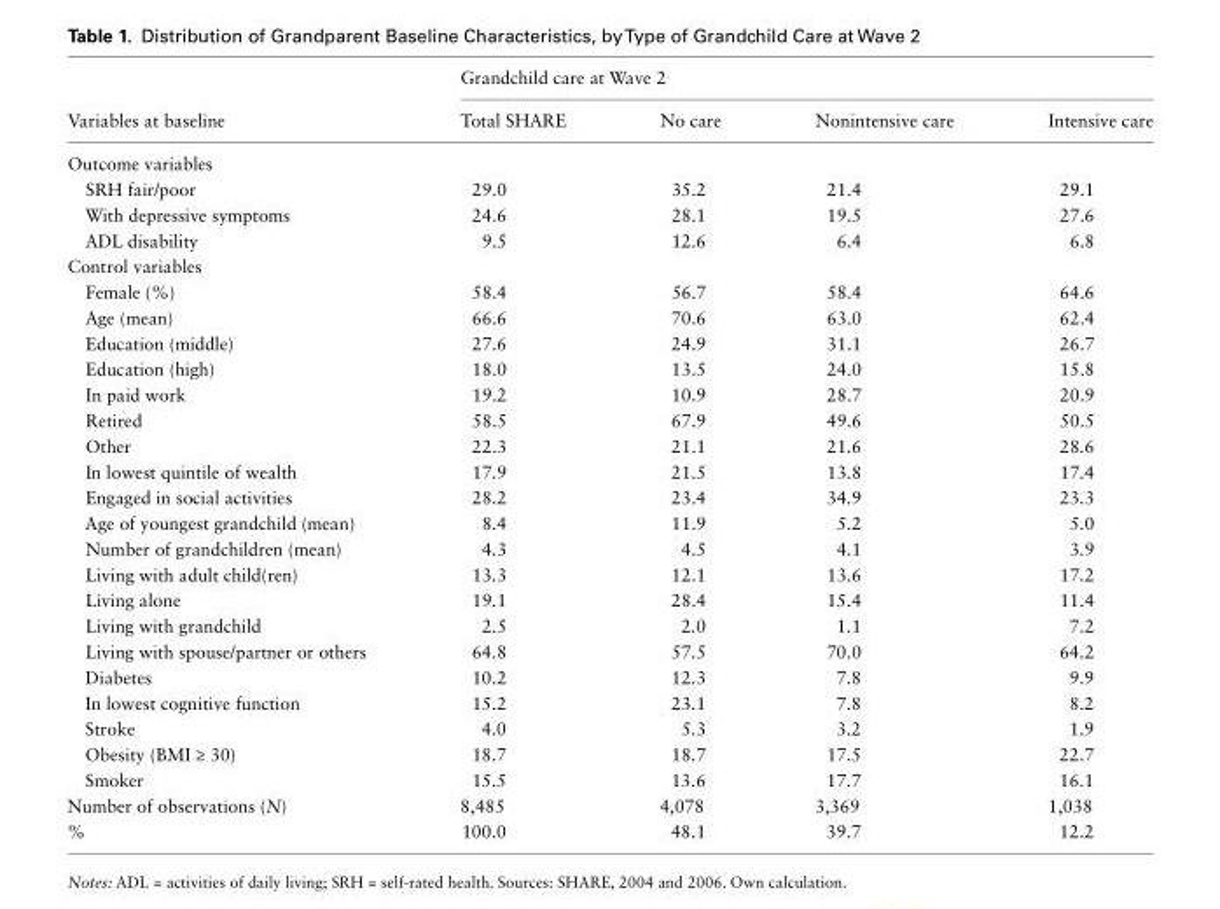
<table><thead><tr><td rowspan="2">Variables at baseline</td><td colspan="4">Grandchild care at Wave 2</td></tr><tr><td>Total SHARE</td><td>No care</td><td>Nonintensive care</td><td>Intensive care</td></tr></thead><tbody><tr><td colspan="5">Outcome variables</td></tr><tr><td>SRH fair/poor</td><td>29.0</td><td>35.2</td><td>21.4</td><td>29.1</td></tr><tr><td>With depressive symptoms</td><td>24.6</td><td>28.1</td><td>19.5</td><td>27.6</td></tr><tr><td>ADL disability</td><td>9.5</td><td>12.6</td><td>6.4</td><td>6.8</td></tr><tr><td colspan="5">Control variables</td></tr><tr><td>Female (%)</td><td>58.4</td><td>56.7</td><td>58.4</td><td>64.6</td></tr><tr><td>Age (mean)</td><td>66.6</td><td>70.6</td><td>63.0</td><td>62.4</td></tr><tr><td>Education (middle)</td><td>27.6</td><td>24.9</td><td>31.1</td><td>26.7</td></tr><tr><td>Education (high)</td><td>18.0</td><td>13.5</td><td>24.0</td><td>15.8</td></tr><tr><td>In paid work</td><td>19.2</td><td>10.9</td><td>28.7</td><td>20.9</td></tr><tr><td>Retired</td><td>58.5</td><td>67.9</td><td>49.6</td><td>50.5</td></tr><tr><td>Other</td><td>22.3</td><td>21.1</td><td>21.6</td><td>28.6</td></tr><tr><td>In lowest quintile of wealth</td><td>17.9</td><td>21.5</td><td>13.8</td><td>17.4</td></tr><tr><td>Engaged in social activities</td><td>28.2</td><td>23.4</td><td>34.9</td><td>23.3</td></tr><tr><td>Age of youngest grandchild (mean)</td><td>8.4</td><td>11.9</td><td>5.2</td><td>5.0</td></tr><tr><td>Number of grandchildren (mean)</td><td>4.3</td><td>4.5</td><td>4.1</td><td>3.9</td></tr><tr><td>Living with adult child(ren)</td><td>13.3</td><td>12.1</td><td>13.6</td><td>17.2</td></tr><tr><td>Living alone</td><td>19.1</td><td>28.4</td><td>15.4</td><td>11.4</td></tr><tr><td>Living with grandchild</td><td>2.5</td><td>2.0</td><td>1.1</td><td>7.2</td></tr><tr><td>Living with spouse/partner or others</td><td>64.8</td><td>57.5</td><td>70.0</td><td>64.2</td></tr><tr><td>Diabetes</td><td>10.2</td><td>12.3</td><td>7.8</td><td>9.9</td></tr><tr><td>In lowest cognitive function</td><td>15.2</td><td>23.1</td><td>7.8</td><td>8.2</td></tr><tr><td>Stroke</td><td>4.0</td><td>5.3</td><td>3.2</td><td>1.9</td></tr><tr><td>Obesity (BMI ≥ 30)</td><td>18.7</td><td>18.7</td><td>17.5</td><td>22.7</td></tr><tr><td>Smoker</td><td>15.5</td><td>13.6</td><td>17.7</td><td>16.1</td></tr><tr><td>Number of observations (N)</td><td>8,485</td><td>4,078</td><td>3,369</td><td>1,038</td></tr><tr><td>%</td><td>100.0</td><td>48.1</td><td>39.7</td><td>12.2</td></tr></tbody></table>